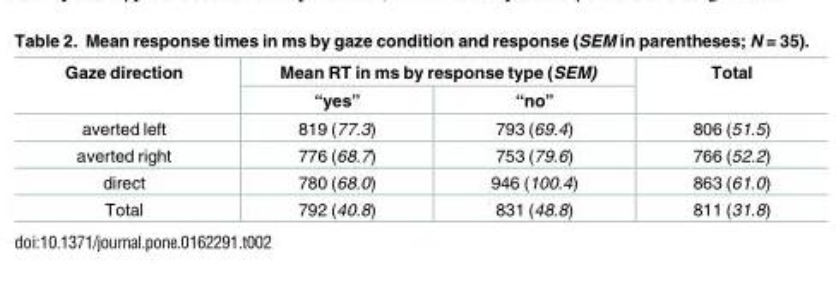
<table><thead><tr><td rowspan="2">Gaze direction</td><td colspan="2">Mean RT in ms by response type (SEM)</td><td rowspan="2">Total</td></tr><tr><td>“yes”</td><td>“no”</td></tr></thead><tbody><tr><td>averted left</td><td>819 (77.3)</td><td>793 (69.4)</td><td>806 (51.5)</td></tr><tr><td>averted right</td><td>776 (68.7)</td><td>753 (79.6)</td><td>766 (52.2)</td></tr><tr><td>direct</td><td>780 (68.0)</td><td>946 (100.4)</td><td>863 (61.0)</td></tr><tr><td>Total</td><td>792 (40.8)</td><td>831 (48.8)</td><td>811 (31.8)</td></tr></tbody></table>